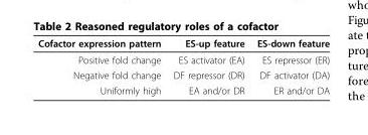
<table><thead><tr><td>Cofactor expression pattern</td><td>ES-up feature</td><td>ES-down feature</td></tr></thead><tbody><tr><td>Positive fold change</td><td>ES activator (EA)</td><td>ES repressor (ER)</td></tr><tr><td>Negative fold change</td><td>DF repressor (DR)</td><td>DF activator (DA)</td></tr><tr><td>Uniformly high</td><td>EA and/or DR</td><td>ER and/or DA</td></tr></tbody></table>